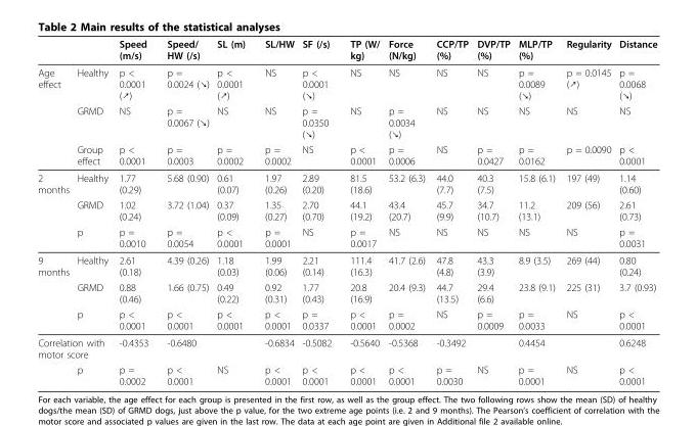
<table><thead><tr><td></td><td></td><td>Speed (m/s)</td><td>Speed/ HW (/s)</td><td>SL (m)</td><td>SL/HW</td><td>SF (/s)</td><td>TP (W/ kg)</td><td>Force (N/kg)</td><td>CCP/TP (%)</td><td>DVP/TP (%)</td><td>MLP/TP (%)</td><td>Regularity</td><td>Distance</td></tr></thead><tbody><tr><td rowspan="3">Age effect</td><td>Healthy</td><td>p &lt; 0.0001 (↗)</td><td>p = 0.0024 (↘)</td><td>p &lt; 0.0001 (↗)</td><td>NS</td><td>p &lt; 0.0001 (↘)</td><td>NS</td><td>NS</td><td>NS</td><td>NS</td><td>p = 0.0089 (↘)</td><td>p = 0.0145 (↗)</td><td>p = 0.0068 (↘)</td></tr><tr><td>GRMD</td><td>NS</td><td>p = 0.0067 (↘)</td><td>NS</td><td>NS</td><td>p = 0.0350 (↘)</td><td>NS</td><td>p = 0.0034 (↘)</td><td>NS</td><td>NS</td><td>NS</td><td>NS</td><td>NS</td></tr><tr><td>Group effect</td><td>p &lt; 0.0001</td><td>p = 0.0003</td><td>p = 0.0002</td><td>p = 0.0002</td><td>NS</td><td>p &lt; 0.0001</td><td>p = 0.0006</td><td>NS</td><td>p = 0.0427</td><td>p = 0.0162</td><td>p = 0.0090</td><td>p &lt; 0.0001</td></tr><tr><td rowspan="3">2 months</td><td>Healthy</td><td>1.77 (0.29)</td><td>5.68 (0.90)</td><td>0.61 (0.07)</td><td>1.97 (0.26)</td><td>2.89 (0.20)</td><td>81.5 (18.6)</td><td>53.2 (6.3)</td><td>44.0 (7.7)</td><td>40.3 (7.5)</td><td>15.8 (6.1)</td><td>197 (49)</td><td>1.14 (0.60)</td></tr><tr><td>GRMD</td><td>1.02 (0.24)</td><td>3.72 (1.04)</td><td>0.37 (0.09)</td><td>1.35 (0.27)</td><td>2.70 (0.70)</td><td>44.1 (19.2)</td><td>43.4 (20.7)</td><td>45.7 (9.9)</td><td>34.7 (10.7)</td><td>11.2 (13.1)</td><td>209 (56)</td><td>2.61 (0.73)</td></tr><tr><td>p</td><td>p = 0.0010</td><td>p = 0.0054</td><td>p &lt; 0.0001</td><td>p = 0.0001</td><td>NS</td><td>p = 0.0017</td><td>NS</td><td>NS</td><td>NS</td><td>NS</td><td>NS</td><td>p = 0.0031</td></tr><tr><td rowspan="3">9 months</td><td>Healthy</td><td>2.61 (0.18)</td><td>4.39 (0.26)</td><td>1.18 (0.03)</td><td>1.99 (0.06)</td><td>2.21 (0.14)</td><td>111.4 (16.3)</td><td>41.7 (2.6)</td><td>47.8 (4.8)</td><td>43.3 (3.9)</td><td>8.9 (3.5)</td><td>269 (44)</td><td>0.80 (0.24)</td></tr><tr><td>GRMD</td><td>0.88 (0.46)</td><td>1.66 (0.75)</td><td>0.49 (0.22)</td><td>0.92 (0.31)</td><td>1.77 (0.43)</td><td>20.8 (16.9)</td><td>20.4 (9.3)</td><td>44.7 (13.5)</td><td>29.4 (6.6)</td><td>23.8 (9.1)</td><td>225 (31)</td><td>3.7 (0.93)</td></tr><tr><td>p</td><td>p &lt; 0.0001</td><td>p &lt; 0.0001</td><td>p &lt; 0.0001</td><td>p &lt; 0.0001</td><td>p = 0.0337</td><td>p &lt; 0.0001</td><td>p = 0.0002</td><td>NS</td><td>p = 0.0009</td><td>p = 0.0033</td><td>NS</td><td>p &lt; 0.0001</td></tr><tr><td colspan="2">Correlation with motor score</td><td>-0.4353</td><td>-0.6480</td><td></td><td>-0.6834</td><td>-0.5082</td><td>-0.5640</td><td>-0.5368</td><td>-0.3492</td><td></td><td>0.4454</td><td></td><td>0.6248</td></tr><tr><td></td><td>p</td><td>p = 0.0002</td><td>p &lt; 0.0001</td><td>NS</td><td>p &lt; 0.0001</td><td>p &lt; 0.0001</td><td>p &lt; 0.0001</td><td>p &lt; 0.0001</td><td>p = 0.0030</td><td>NS</td><td>p = 0.0001</td><td>NS</td><td>p &lt; 0.0001</td></tr></tbody></table>